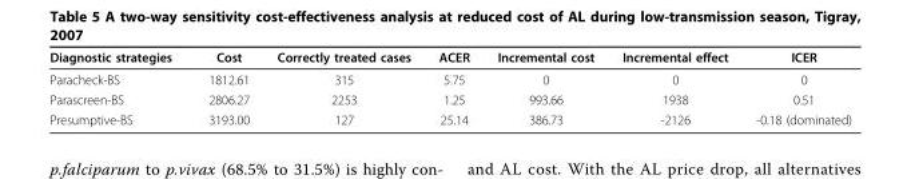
<table><thead><tr><td>Diagnostic strategies</td><td>Cost</td><td>Correctly treated cases</td><td>ACER</td><td>Incremental cost</td><td>Incremental effect</td><td>ICER</td></tr></thead><tbody><tr><td>Paracheck-BS</td><td>1812.61</td><td>315</td><td>5.75</td><td>0</td><td>0</td><td>0</td></tr><tr><td>Parascreen-BS</td><td>2806.27</td><td>2253</td><td>1.25</td><td>993.66</td><td>1938</td><td>0.51</td></tr><tr><td>Presumptive-BS</td><td>3193.00</td><td>127</td><td>25.14</td><td>386.73</td><td>-2126</td><td>-0.18 (dominated)</td></tr></tbody></table>